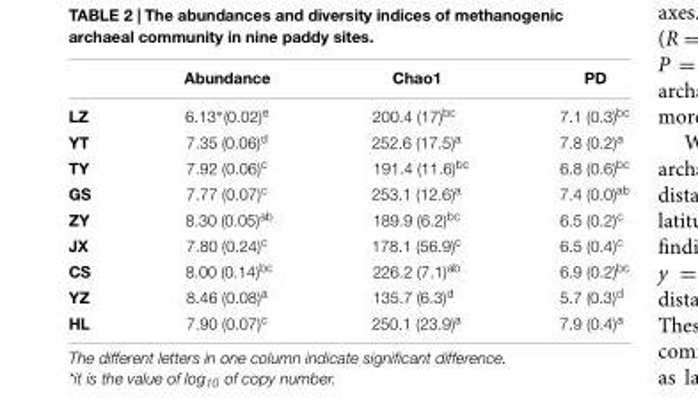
<table><thead><tr><td></td><td>Abundance</td><td>Chao1</td><td>PD</td></tr></thead><tbody><tr><td>LZ</td><td>6.13∗(0.02)e</td><td>200.4 (17)<sup>bc</sup></td><td>7.1 (0.3)<sup>bc</sup></td></tr><tr><td>YT</td><td>7.35 (0.06)<sup>d</sup></td><td>252.6 (17.5)<sup>a</sup></td><td>7.8 (0.2)<sup>a</sup></td></tr><tr><td>TY</td><td>7.92 (0.06)<sup>c</sup></td><td>191.4 (11.6)<sup>bc</sup></td><td>6.8 (0.6)<sup>bc</sup></td></tr><tr><td>GS</td><td>7.77 (0.07)<sup>c</sup></td><td>253.1 (12.6)<sup>a</sup></td><td>7.4 (0.0)<sup>ab</sup></td></tr><tr><td>ZY</td><td>8.30 (0.05)<sup>ab</sup></td><td>189.9 (6.2)<sup>bc</sup></td><td>6.5 (0.2)<sup>c</sup></td></tr><tr><td>JX</td><td>7.80 (0.24)<sup>c</sup></td><td>178.1 (56.9)<sup>c</sup></td><td>6.5 (0.4)<sup>c</sup></td></tr><tr><td>CS</td><td>8.00 (0.14)<sup>bc</sup></td><td>226.2 (7.1)<sup>ab</sup></td><td>6.9 (0.2)<sup>bc</sup></td></tr><tr><td>YZ</td><td>8.46 (0.08)<sup>a</sup></td><td>135.7 (6.3)<sup>d</sup></td><td>5.7 (0.3)<sup>d</sup></td></tr><tr><td>HL</td><td>7.90 (0.07)<sup>c</sup></td><td>250.1 (23.9)<sup>a</sup></td><td>7.9 (0.4)<sup>a</sup></td></tr></tbody></table>